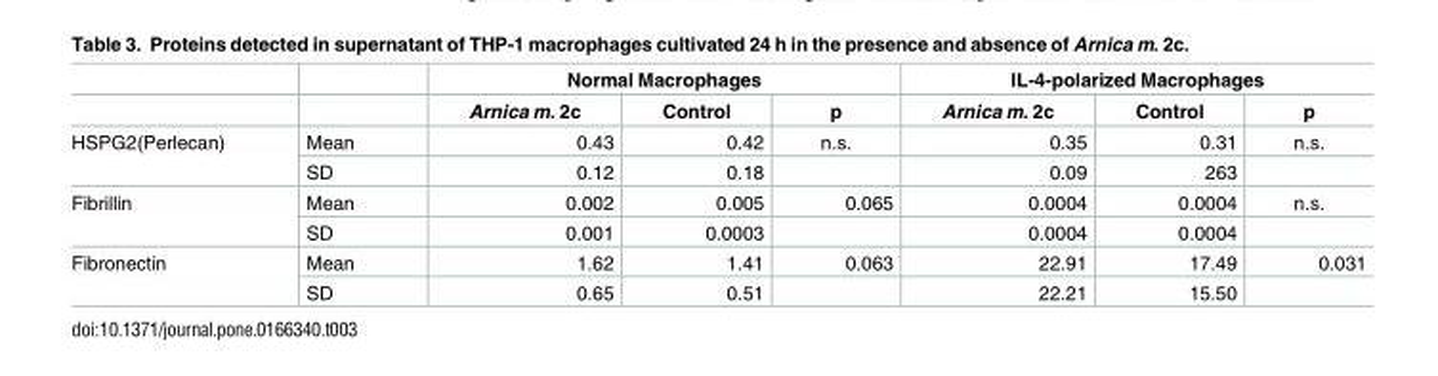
<table><thead><tr><td rowspan="2"></td><td rowspan="2"></td><td colspan="3">Normal Macrophages</td><td colspan="3">IL-4-polarized Macrophages</td></tr><tr><td>Arnica m. 2c</td><td>Control</td><td>p</td><td>Arnica m. 2c</td><td>Control</td><td>p</td></tr></thead><tbody><tr><td rowspan="2">HSPG2(Perlecan)</td><td>Mean</td><td>0.43</td><td>0.42</td><td>n.s.</td><td>0.35</td><td>0.31</td><td>n.s.</td></tr><tr><td>SD</td><td>0.12</td><td>0.18</td><td></td><td>0.09</td><td>263</td><td></td></tr><tr><td rowspan="2">Fibrillin</td><td>Mean</td><td>0.002</td><td>0.005</td><td>0.065</td><td>0.0004</td><td>0.0004</td><td>n.s.</td></tr><tr><td>SD</td><td>0.001</td><td>0.0003</td><td></td><td>0.0004</td><td>0.0004</td><td></td></tr><tr><td rowspan="2">Fibronectin</td><td>Mean</td><td>1.62</td><td>1.41</td><td>0.063</td><td>22.91</td><td>17.49</td><td>0.031</td></tr><tr><td>SD</td><td>0.65</td><td>0.51</td><td></td><td>22.21</td><td>15.50</td><td></td></tr></tbody></table>